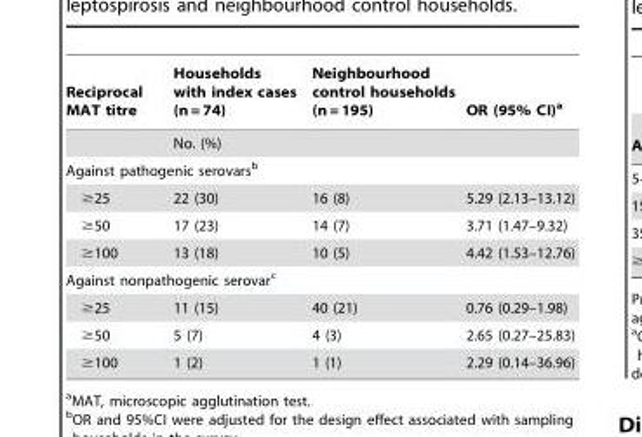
<table><thead><tr><td>Reciprocal MAT titre</td><td>Households with index cases (n = 74)</td><td>Neighbourhood control households (n = 195)</td><td>OR (95% CI)<sup>a</sup></td></tr></thead><tbody><tr><td></td><td colspan="2">No. (%)</td><td></td></tr><tr><td colspan="4">Against pathogenic serovars<sup>b</sup></td></tr><tr><td>≥25</td><td>22 (30)</td><td>16 (8)</td><td>5.29 (2.13–13.12)</td></tr><tr><td>≥50</td><td>17 (23)</td><td>14 (7)</td><td>3.71 (1.47–9.32)</td></tr><tr><td>≥100</td><td>13 (18)</td><td>10 (5)</td><td>4.42 (1.53–12.76)</td></tr><tr><td colspan="4">Against nonpathogenic serovar<sup>c</sup></td></tr><tr><td>≥25</td><td>11 (15)</td><td>40 (21)</td><td>0.76 (0.29–1.98)</td></tr><tr><td>≥50</td><td>5 (7)</td><td>4 (3)</td><td>2.65 (0.27–25.83)</td></tr><tr><td>≥100</td><td>1 (2)</td><td>1 (1)</td><td>2.29 (0.14–36.96)</td></tr></tbody></table>